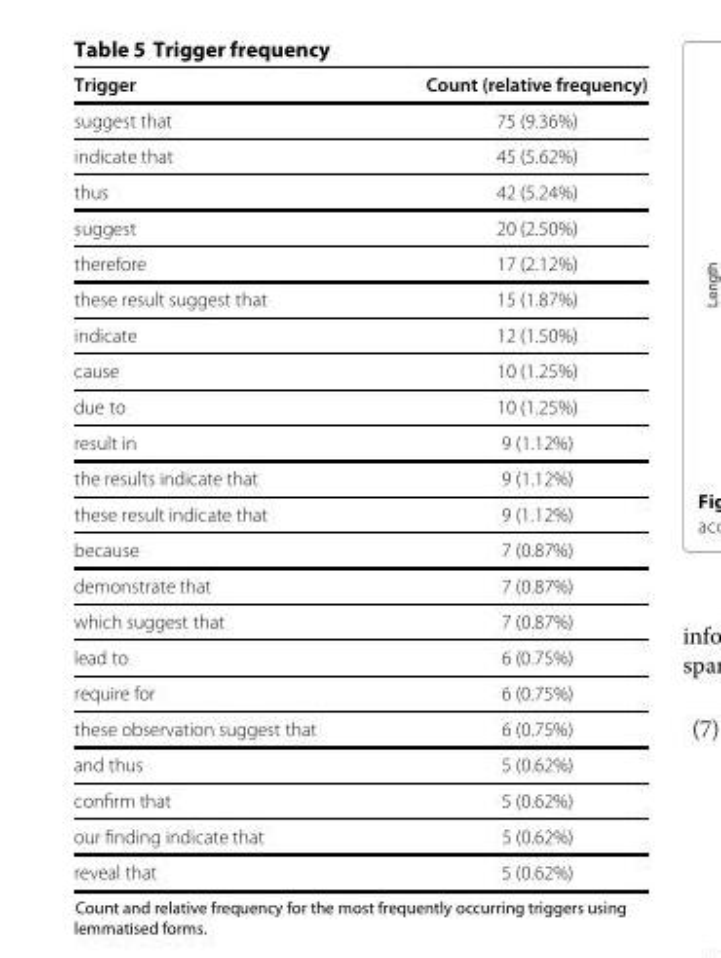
<table><thead><tr><td>Trigger</td><td>Count (relative frequency)</td></tr></thead><tbody><tr><td>suggest that</td><td>75 (9.36%)</td></tr><tr><td>indicate that</td><td>45 (5.62%)</td></tr><tr><td>thus</td><td>42 (5.24%)</td></tr><tr><td>suggest</td><td>20 (2.50%)</td></tr><tr><td>therefore</td><td>17 (2.12%)</td></tr><tr><td>these result suggest that</td><td>15 (1.87%)</td></tr><tr><td>indicate</td><td>12 (1.50%)</td></tr><tr><td>cause</td><td>10 (1.25%)</td></tr><tr><td>due to</td><td>10 (1.25%)</td></tr><tr><td>result in</td><td>9 (1.12%)</td></tr><tr><td>the results indicate that</td><td>9 (1.12%)</td></tr><tr><td>these result indicate that</td><td>9 (1.12%)</td></tr><tr><td>because</td><td>7 (0.87%)</td></tr><tr><td>demonstrate that</td><td>7 (0.87%)</td></tr><tr><td>which suggest that</td><td>7 (0.87%)</td></tr><tr><td>lead to</td><td>6 (0.75%)</td></tr><tr><td>require for</td><td>6 (0.75%)</td></tr><tr><td>these observation suggest that</td><td>6 (0.75%)</td></tr><tr><td>and thus</td><td>5 (0.62%)</td></tr><tr><td>confirm that</td><td>5 (0.62%)</td></tr><tr><td>our finding indicate that</td><td>5 (0.62%)</td></tr><tr><td>reveal that</td><td>5 (0.62%)</td></tr></tbody></table>